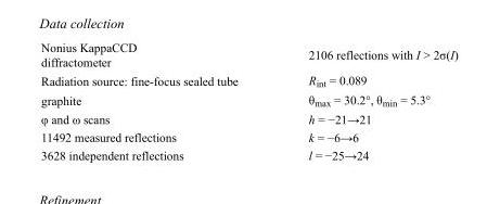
<table><tbody><tr><td>Nonius KappaCCD diffractometer</td><td>2106 reflections with I &gt; 2σ(I)</td></tr><tr><td>Radiation source: fine-focus sealed tube</td><td>R<sub>int</sub> = 0.089</td></tr><tr><td>graphite</td><td>θ<sub>max</sub> = 30.2°, θ<sub>min</sub> = 5.3°</td></tr><tr><td>φ and ω scans</td><td>h = −21→21</td></tr><tr><td>11492 measured reflections</td><td>k = −6→6</td></tr><tr><td>3628 independent reflections</td><td>l = −25→24</td></tr></tbody></table>